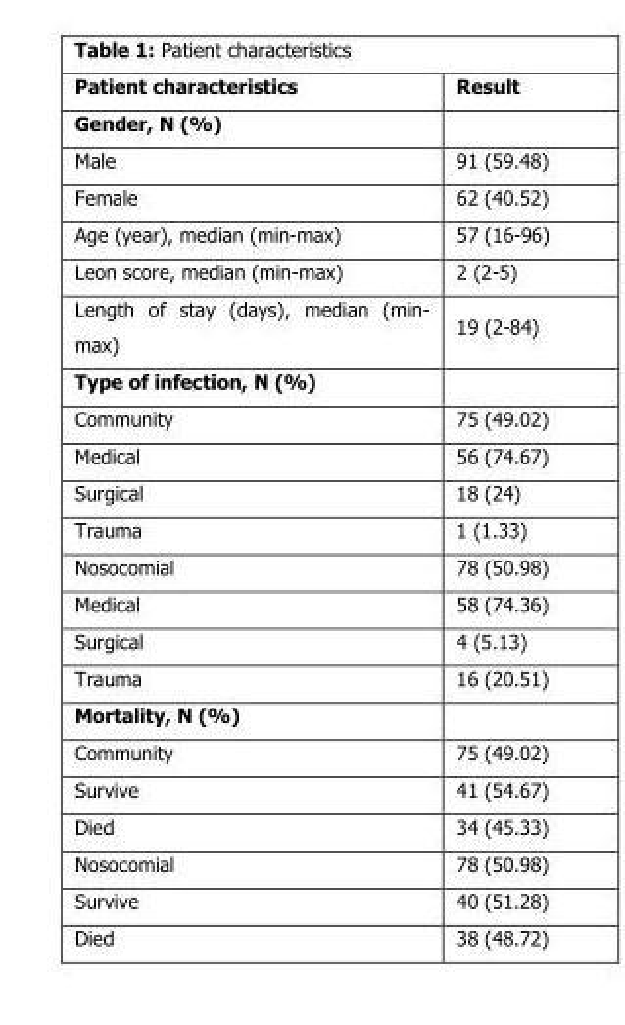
<table><thead><tr><td>Patient characteristics</td><td>Result</td></tr></thead><tbody><tr><td colspan="2">Gender, N (%)</td></tr><tr><td>Male</td><td>91 (59.48)</td></tr><tr><td>Female</td><td>62 (40.52)</td></tr><tr><td>Age (year), median (min-max)</td><td>57 (16-96)</td></tr><tr><td>Leon score, median (min-max)</td><td>2 (2-5)</td></tr><tr><td>Length of stay (days), median (min- max)</td><td>19 (2-84)</td></tr><tr><td colspan="2">Type of infection, N (%)</td></tr><tr><td>Community</td><td>75 (49.02)</td></tr><tr><td>Medical</td><td>56 (74.67)</td></tr><tr><td>Surgical</td><td>18 (24)</td></tr><tr><td>Trauma</td><td>1 (1.33)</td></tr><tr><td>Nosocomial</td><td>78 (50.98)</td></tr><tr><td>Medical</td><td>58 (74.36)</td></tr><tr><td>Surgical</td><td>4 (5.13)</td></tr><tr><td>Trauma</td><td>16 (20.51)</td></tr><tr><td colspan="2">Mortality, N (%)</td></tr><tr><td>Community</td><td>75 (49.02)</td></tr><tr><td>Survive</td><td>41 (54.67)</td></tr><tr><td>Died</td><td>34 (45.33)</td></tr><tr><td>Nosocomial</td><td>78 (50.98)</td></tr><tr><td>Survive</td><td>40 (51.28)</td></tr><tr><td>Died</td><td>38 (48.72)</td></tr></tbody></table>